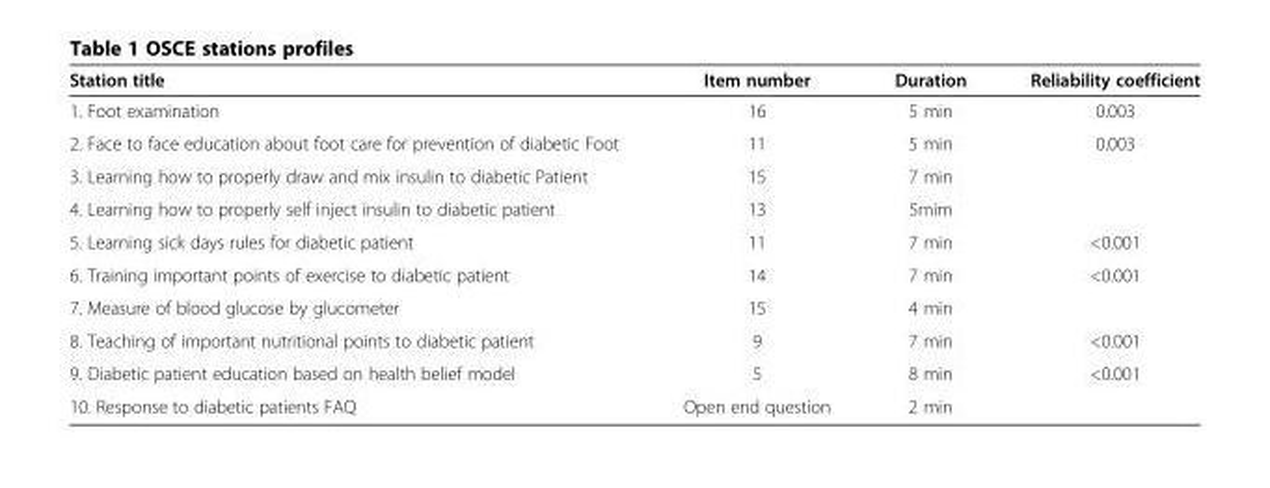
<table><thead><tr><td>Station title</td><td>Item number</td><td>Duration</td><td>Reliability coefficient</td></tr></thead><tbody><tr><td>1. Foot examination</td><td>16</td><td>5 min</td><td>0.003</td></tr><tr><td>2. Face to face education about foot care for prevention of diabetic Foot</td><td>11</td><td>5 min</td><td>0.003</td></tr><tr><td>3. Learning how to properly draw and mix insulin to diabetic Patient</td><td>15</td><td>7 min</td><td></td></tr><tr><td>4. Learning how to properly self inject insulin to diabetic patient</td><td>13</td><td>5mim</td><td></td></tr><tr><td>5. Learning sick days rules for diabetic patient</td><td>11</td><td>7 min</td><td>&lt;0.001</td></tr><tr><td>6. Training important points of exercise to diabetic patient</td><td>14</td><td>7 min</td><td>&lt;0.001</td></tr><tr><td>7. Measure of blood glucose by glucometer</td><td>15</td><td>4 min</td><td></td></tr><tr><td>8. Teaching of important nutritional points to diabetic patient</td><td>9</td><td>7 min</td><td>&lt;0.001</td></tr><tr><td>9. Diabetic patient education based on health belief model</td><td>5</td><td>8 min</td><td>&lt;0.001</td></tr><tr><td>10. Response to diabetic patients FAQ</td><td>Open end question</td><td>2 min</td><td></td></tr></tbody></table>